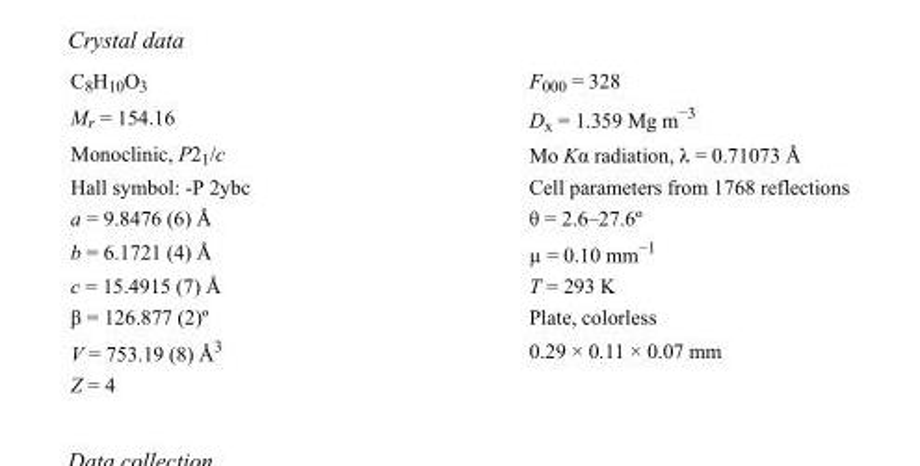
<table><tbody><tr><td>C<sub>8</sub>H<sub>10</sub>O<sub>3</sub></td><td>F000 = 328</td></tr><tr><td>M<sub>r</sub> = 154.16</td><td>D<sub>x</sub> = 1.359 Mg m<sup>−3</sup></td></tr><tr><td>Monoclinic, P2<sub>1</sub>/c</td><td>Mo Kα radiation, λ = 0.71073 Å</td></tr><tr><td>Hall symbol: -P 2ybc</td><td>Cell parameters from 1768 reflections</td></tr><tr><td>a = 9.8476 (6) Å</td><td>θ = 2.6–27.6º</td></tr><tr><td>b = 6.1721 (4) Å</td><td>µ = 0.10 mm<sup>−1</sup></td></tr><tr><td>c = 15.4915 (7) Å</td><td>T = 293 K</td></tr><tr><td>β = 126.877 (2)º</td><td>Plate, colorless</td></tr><tr><td>V = 753.19 (8) Å<sup>3</sup></td><td>0.29 × 0.11 × 0.07 mm</td></tr><tr><td>Z = 4</td><td></td></tr></tbody></table>